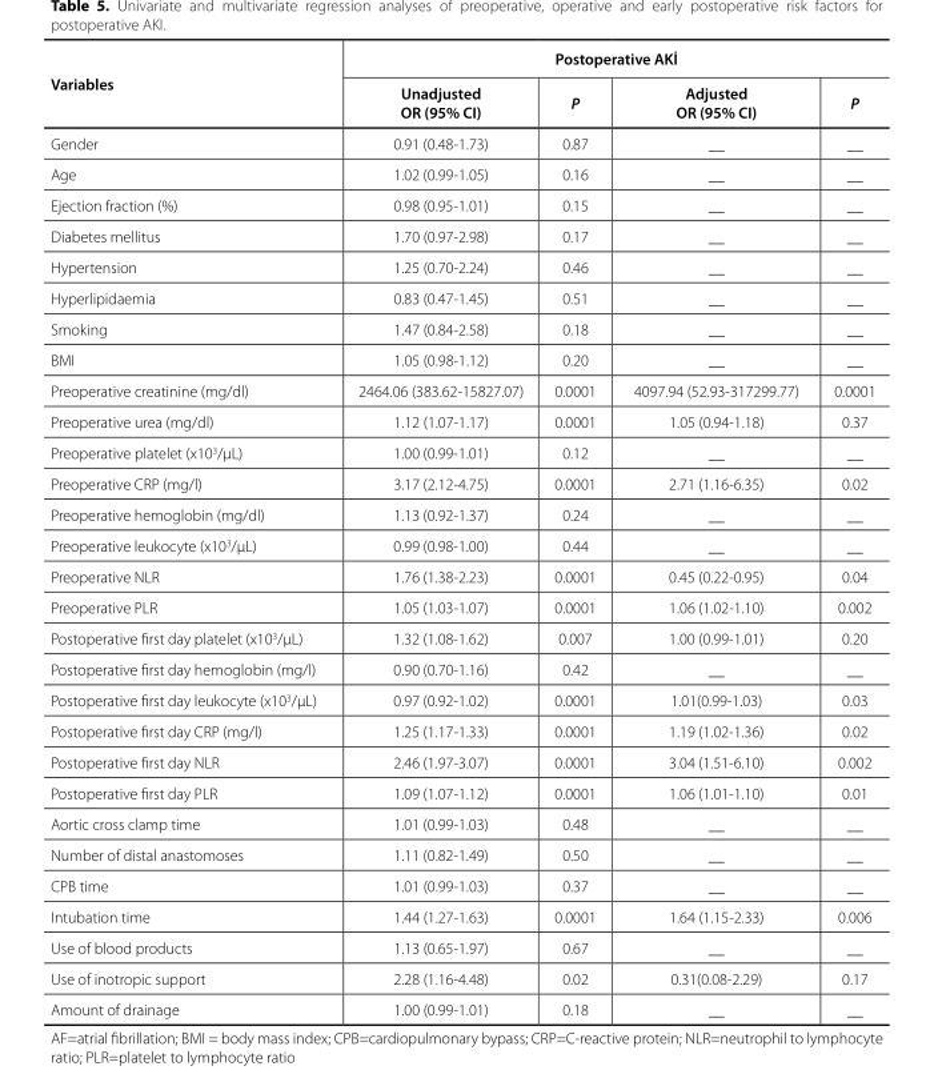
<table><thead><tr><td rowspan="2">Variables</td><td colspan="4">Postoperative AKİ</td></tr><tr><td>Unadjusted OR (95% CI)</td><td>P</td><td>Adjusted OR (95% CI)</td><td>P</td></tr></thead><tbody><tr><td>Gender</td><td>0.91 (0.48-1.73)</td><td>0.87</td><td>__</td><td>__</td></tr><tr><td>Age</td><td>1.02 (0.99-1.05)</td><td>0.16</td><td>__</td><td>__</td></tr><tr><td>Ejection fraction (%)</td><td>0.98 (0.95-1.01)</td><td>0.15</td><td>__</td><td>__</td></tr><tr><td>Diabetes mellitus</td><td>1.70 (0.97-2.98)</td><td>0.17</td><td>__</td><td>__</td></tr><tr><td>Hypertension</td><td>1.25 (0.70-2.24)</td><td>0.46</td><td>__</td><td>__</td></tr><tr><td>Hyperlipidaemia</td><td>0.83 (0.47-1.45)</td><td>0.51</td><td>__</td><td>__</td></tr><tr><td>Smoking</td><td>1.47 (0.84-2.58)</td><td>0.18</td><td>__</td><td>__</td></tr><tr><td>BMI</td><td>1.05 (0.98-1.12)</td><td>0.20</td><td>__</td><td>__</td></tr><tr><td>Preoperative creatinine (mg/dl)</td><td>2464.06 (383.62-15827.07)</td><td>0.0001</td><td>4097.94 (52.93-317299.77)</td><td>0.0001</td></tr><tr><td>Preoperative urea (mg/dl)</td><td>1.12 (1.07-1.17)</td><td>0.0001</td><td>1.05 (0.94-1.18)</td><td>0.37</td></tr><tr><td>Preoperative platelet (x10<sup>3</sup>/µL)</td><td>1.00 (0.99-1.01)</td><td>0.12</td><td>__</td><td>__</td></tr><tr><td>Preoperative CRP (mg/l)</td><td>3.17 (2.12-4.75)</td><td>0.0001</td><td>2.71 (1.16-6.35)</td><td>0.02</td></tr><tr><td>Preoperative hemoglobin (mg/dl)</td><td>1.13 (0.92-1.37)</td><td>0.24</td><td>__</td><td>__</td></tr><tr><td>Preoperative leukocyte (x10<sup>3</sup>/µL)</td><td>0.99 (0.98-1.00)</td><td>0.44</td><td>__</td><td>__</td></tr><tr><td>Preoperative NLR</td><td>1.76 (1.38-2.23)</td><td>0.0001</td><td>0.45 (0.22-0.95)</td><td>0.04</td></tr><tr><td>Preoperative PLR</td><td>1.05 (1.03-1.07)</td><td>0.0001</td><td>1.06 (1.02-1.10)</td><td>0.002</td></tr><tr><td>Postoperative first day platelet (x10<sup>3</sup>/µL)</td><td>1.32 (1.08-1.62)</td><td>0.007</td><td>1.00 (0.99-1.01)</td><td>0.20</td></tr><tr><td>Postoperative first day hemoglobin (mg/l)</td><td>0.90 (0.70-1.16)</td><td>0.42</td><td>__</td><td>__</td></tr><tr><td>Postoperative first day leukocyte (x10<sup>3</sup>/µL)</td><td>0.97 (0.92-1.02)</td><td>0.0001</td><td>1.01(0.99-1.03)</td><td>0.03</td></tr><tr><td>Postoperative first day CRP (mg/l)</td><td>1.25 (1.17-1.33)</td><td>0.0001</td><td>1.19 (1.02-1.36)</td><td>0.02</td></tr><tr><td>Postoperative first day NLR</td><td>2.46 (1.97-3.07)</td><td>0.0001</td><td>3.04 (1.51-6.10)</td><td>0.002</td></tr><tr><td>Postoperative first day PLR</td><td>1.09 (1.07-1.12)</td><td>0.0001</td><td>1.06 (1.01-1.10)</td><td>0.01</td></tr><tr><td>Aortic cross clamp time</td><td>1.01 (0.99-1.03)</td><td>0.48</td><td>__</td><td>__</td></tr><tr><td>Number of distal anastomoses</td><td>1.11 (0.82-1.49)</td><td>0.50</td><td>__</td><td>__</td></tr><tr><td>CPB time</td><td>1.01 (0.99-1.03)</td><td>0.37</td><td>__</td><td>__</td></tr><tr><td>Intubation time</td><td>1.44 (1.27-1.63)</td><td>0.0001</td><td>1.64 (1.15-2.33)</td><td>0.006</td></tr><tr><td>Use of blood products</td><td>1.13 (0.65-1.97)</td><td>0.67</td><td>__</td><td>__</td></tr><tr><td>Use of inotropic support</td><td>2.28 (1.16-4.48)</td><td>0.02</td><td>0.31(0.08-2.29)</td><td>0.17</td></tr><tr><td>Amount of drainage</td><td>1.00 (0.99-1.01)</td><td>0.18</td><td>__</td><td>__</td></tr></tbody></table>